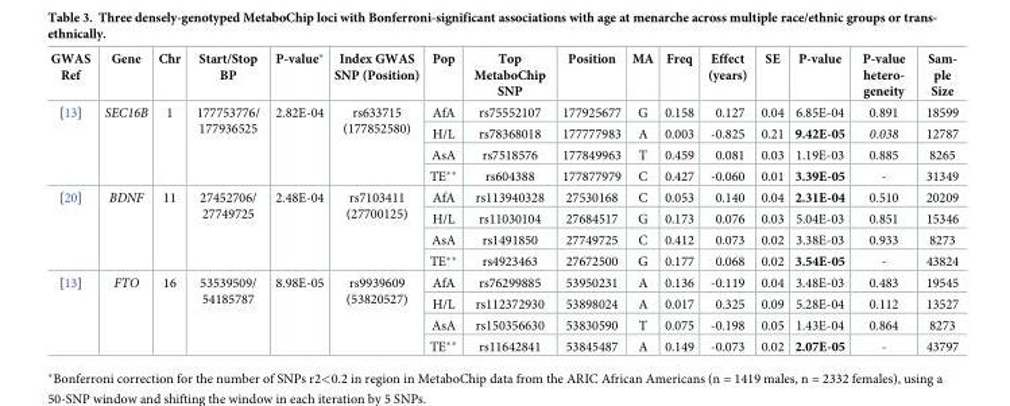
<table><thead><tr><td>GWAS Ref</td><td>Gene</td><td>Chr</td><td>Start/Stop BP</td><td>P-value*</td><td>Index GWAS SNP (Position)</td><td>Pop</td><td>Top MetaboChip SNP</td><td>Position</td><td>MA</td><td>Freq</td><td>Effect (years)</td><td>SE</td><td>P-value</td><td>P-value hetero- geneity</td><td>Sam- ple Size</td></tr></thead><tbody><tr><td rowspan="4">[13]</td><td rowspan="4">SEC16B</td><td rowspan="4">1</td><td rowspan="4">177753776/ 177936525</td><td rowspan="4">2.82E-04</td><td rowspan="4">rs633715 (177852580)</td><td>AfA</td><td>rs75552107</td><td>177925677</td><td>G</td><td>0.158</td><td>0.127</td><td>0.04</td><td>6.85E-04</td><td>0.891</td><td>18599</td></tr><tr><td>H/L</td><td>rs78368018</td><td>177777983</td><td>A</td><td>0.003</td><td>-0.825</td><td>0.21</td><td>9.42E-05</td><td>0.038</td><td>12787</td></tr><tr><td>AsA</td><td>rs7518576</td><td>177849963</td><td>T</td><td>0.459</td><td>0.081</td><td>0.03</td><td>1.19E-03</td><td>0.885</td><td>8265</td></tr><tr><td>TE**</td><td>rs604388</td><td>177877979</td><td>C</td><td>0.427</td><td>-0.060</td><td>0.01</td><td>3.39E-05</td><td>-</td><td>31349</td></tr><tr><td rowspan="4">[20]</td><td rowspan="4">BDNF</td><td rowspan="4">11</td><td rowspan="4">27452706/ 27749725</td><td rowspan="4">2.48E-04</td><td rowspan="4">rs7103411 (27700125)</td><td>AfA</td><td>rs113940328</td><td>27530168</td><td>C</td><td>0.053</td><td>0.140</td><td>0.04</td><td>2.31E-04</td><td>0.510</td><td>20209</td></tr><tr><td>H/L</td><td>rs11030104</td><td>27684517</td><td>G</td><td>0.173</td><td>0.076</td><td>0.03</td><td>5.04E-03</td><td>0.851</td><td>15346</td></tr><tr><td>AsA</td><td>rs1491850</td><td>27749725</td><td>C</td><td>0.412</td><td>0.073</td><td>0.02</td><td>3.38E-03</td><td>0.933</td><td>8273</td></tr><tr><td>TE**</td><td>rs4923463</td><td>27672500</td><td>G</td><td>0.177</td><td>0.068</td><td>0.02</td><td>3.54E-05</td><td>-</td><td>43824</td></tr><tr><td rowspan="4">[13]</td><td rowspan="4">FTO</td><td rowspan="4">16</td><td rowspan="4">53539509/ 54185787</td><td rowspan="4">8.98E-05</td><td rowspan="4">rs9939609 (53820527)</td><td>AfA</td><td>rs76299885</td><td>53950231</td><td>A</td><td>0.136</td><td>-0.119</td><td>0.04</td><td>3.48E-03</td><td>0.483</td><td>19545</td></tr><tr><td>H/L</td><td>rs112372930</td><td>53898024</td><td>A</td><td>0.017</td><td>0.325</td><td>0.09</td><td>5.28E-04</td><td>0.112</td><td>13527</td></tr><tr><td>AsA</td><td>rs150356630</td><td>53830590</td><td>T</td><td>0.075</td><td>-0.198</td><td>0.05</td><td>1.43E-04</td><td>0.864</td><td>8273</td></tr><tr><td>TE**</td><td>rs11642841</td><td>53845487</td><td>A</td><td>0.149</td><td>-0.073</td><td>0.02</td><td>2.07E-05</td><td>-</td><td>43797</td></tr></tbody></table>